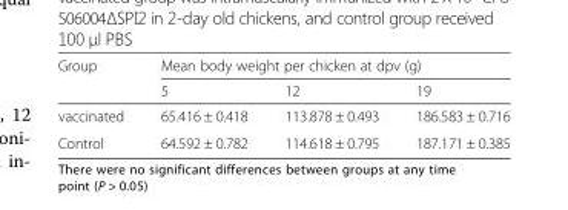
<table><thead><tr><td rowspan="2">Group</td><td colspan="3">Mean body weight per chicken at dpv (g)</td></tr><tr><td>5</td><td>12</td><td>19</td></tr></thead><tbody><tr><td>vaccinated</td><td>65.416 ± 0.418</td><td>113.878 ± 0.493</td><td>186.583 ± 0.716</td></tr><tr><td>Control</td><td>64.592 ± 0.782</td><td>114.618 ± 0.795</td><td>187.171 ± 0.385</td></tr></tbody></table>